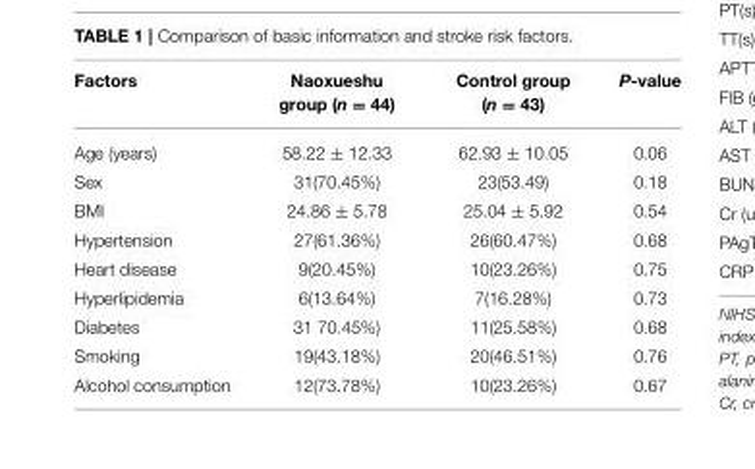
<table><thead><tr><td>Factors</td><td>Naoxueshu group (n = 44)</td><td>Control group (n = 43)</td><td>P-value</td></tr></thead><tbody><tr><td>Age (years)</td><td>58.22 ± 12.33</td><td>62.93 ± 10.05</td><td>0.06</td></tr><tr><td>Sex</td><td>31(70.45%)</td><td>23(53.49)</td><td>0.18</td></tr><tr><td>BMI</td><td>24.86 ± 5.78</td><td>25.04 ± 5.92</td><td>0.54</td></tr><tr><td>Hypertension</td><td>27(61.36%)</td><td>26(60.47%)</td><td>0.68</td></tr><tr><td>Heart disease</td><td>9(20.45%)</td><td>10(23.26%)</td><td>0.75</td></tr><tr><td>Hyperlipidemia</td><td>6(13.64%)</td><td>7(16.28%)</td><td>0.73</td></tr><tr><td>Diabetes</td><td>31 70.45%)</td><td>11(25.58%)</td><td>0.68</td></tr><tr><td>Smoking</td><td>19(43.18%)</td><td>20(46.51%)</td><td>0.76</td></tr><tr><td>Alcohol consumption</td><td>12(73.78%)</td><td>10(23.26%)</td><td>0.67</td></tr></tbody></table>